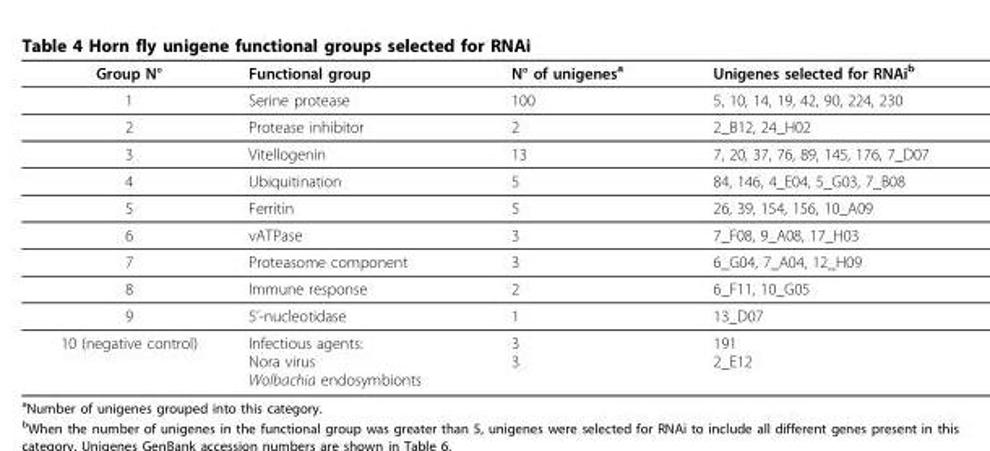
<table><thead><tr><td>Group N°</td><td>Functional group</td><td>N° of unigenes<sup>a</sup></td><td>Unigenes selected for RNAi<sup>b</sup></td></tr></thead><tbody><tr><td>1</td><td>Serine protease</td><td>100</td><td>5, 10, 14, 19, 42, 90, 224, 230</td></tr><tr><td>2</td><td>Protease inhibitor</td><td>2</td><td>2_B12, 24_H02</td></tr><tr><td>3</td><td>Vitellogenin</td><td>13</td><td>7, 20, 37, 76, 89, 145, 176, 7_D07</td></tr><tr><td>4</td><td>Ubiquitination</td><td>5</td><td>84, 146, 4_E04, 5_G03, 7_B08</td></tr><tr><td>5</td><td>Ferritin</td><td>5</td><td>26, 39, 154, 156, 10_A09</td></tr><tr><td>6</td><td>vATPase</td><td>3</td><td>7_F08, 9_A08, 17_H03</td></tr><tr><td>7</td><td>Proteasome component</td><td>3</td><td>6_G04, 7_A04, 12_H09</td></tr><tr><td>8</td><td>Immune response</td><td>2</td><td>6_F11, 10_G05</td></tr><tr><td>9</td><td>5’-nucleotidase</td><td>1</td><td>13_D07</td></tr><tr><td>10 (negative control)</td><td>Infectious agents: Nora virus Wolbachia endosymbionts</td><td>3 3</td><td>191 2_E12</td></tr></tbody></table>